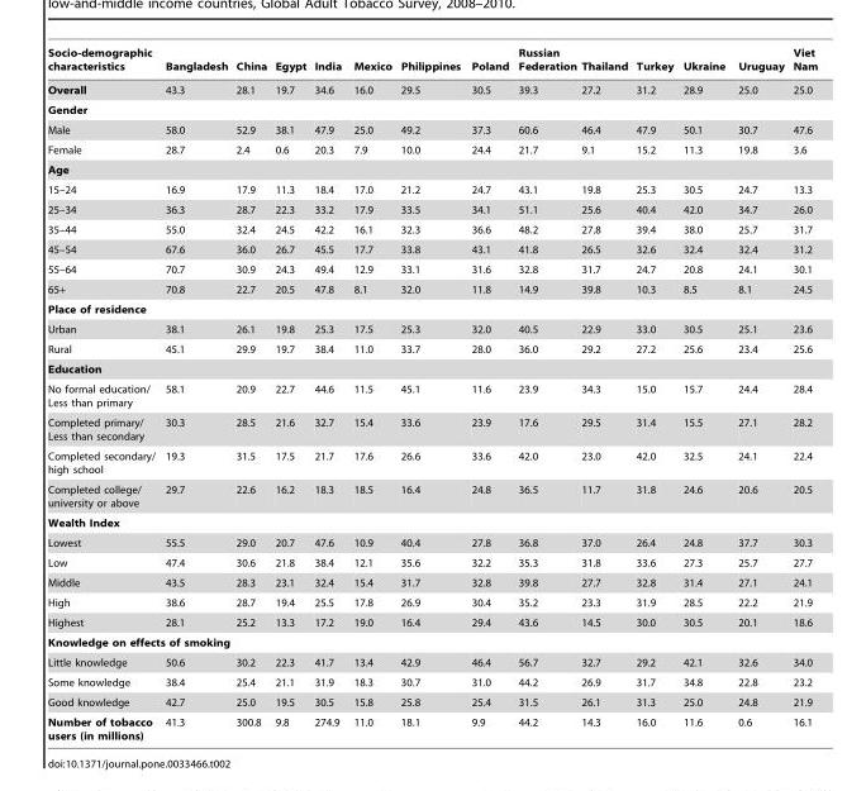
<table><thead><tr><td>Socio-demographic characteristics</td><td>Bangladesh</td><td>China</td><td>Egypt</td><td>India</td><td>Mexico</td><td>Philippines</td><td>Poland</td><td>Russian Federation</td><td>Thailand</td><td>Turkey</td><td>Ukraine</td><td>Uruguay</td><td>Viet Nam</td></tr></thead><tbody><tr><td>Overall</td><td>43.3</td><td>28.1</td><td>19.7</td><td>34.6</td><td>16.0</td><td>29.5</td><td>30.5</td><td>39.3</td><td>27.2</td><td>31.2</td><td>28.9</td><td>25.0</td><td>25.0</td></tr><tr><td colspan="14">Gender</td></tr><tr><td>Male</td><td>58.0</td><td>52.9</td><td>38.1</td><td>47.9</td><td>25.0</td><td>49.2</td><td>37.3</td><td>60.6</td><td>46.4</td><td>47.9</td><td>50.1</td><td>30.7</td><td>47.6</td></tr><tr><td>Female</td><td>28.7</td><td>2.4</td><td>0.6</td><td>20.3</td><td>7.9</td><td>10.0</td><td>24.4</td><td>21.7</td><td>9.1</td><td>15.2</td><td>11.3</td><td>19.8</td><td>3.6</td></tr><tr><td colspan="14">Age</td></tr><tr><td>15–24</td><td>16.9</td><td>17.9</td><td>11.3</td><td>18.4</td><td>17.0</td><td>21.2</td><td>24.7</td><td>43.1</td><td>19.8</td><td>25.3</td><td>30.5</td><td>24.7</td><td>13.3</td></tr><tr><td>25–34</td><td>36.3</td><td>28.7</td><td>22.3</td><td>33.2</td><td>17.9</td><td>33.5</td><td>34.1</td><td>51.1</td><td>25.6</td><td>40.4</td><td>42.0</td><td>34.7</td><td>26.0</td></tr><tr><td>35–44</td><td>55.0</td><td>32.4</td><td>24.5</td><td>42.2</td><td>16.1</td><td>32.3</td><td>36.6</td><td>48.2</td><td>27.8</td><td>39.4</td><td>38.0</td><td>25.7</td><td>31.7</td></tr><tr><td>45–54</td><td>67.6</td><td>36.0</td><td>26.7</td><td>45.5</td><td>17.7</td><td>33.8</td><td>43.1</td><td>41.8</td><td>26.5</td><td>32.6</td><td>32.4</td><td>32.4</td><td>31.2</td></tr><tr><td>55–64</td><td>70.7</td><td>30.9</td><td>24.3</td><td>49.4</td><td>12.9</td><td>33.1</td><td>31.6</td><td>32.8</td><td>31.7</td><td>24.7</td><td>20.8</td><td>24.1</td><td>30.1</td></tr><tr><td>65+</td><td>70.8</td><td>22.7</td><td>20.5</td><td>47.8</td><td>8.1</td><td>32.0</td><td>11.8</td><td>14.9</td><td>39.8</td><td>10.3</td><td>8.5</td><td>8.1</td><td>24.5</td></tr><tr><td colspan="14">Place of residence</td></tr><tr><td>Urban</td><td>38.1</td><td>26.1</td><td>19.8</td><td>25.3</td><td>17.5</td><td>25.3</td><td>32.0</td><td>40.5</td><td>22.9</td><td>33.0</td><td>30.5</td><td>25.1</td><td>23.6</td></tr><tr><td>Rural</td><td>45.1</td><td>29.9</td><td>19.7</td><td>38.4</td><td>11.0</td><td>33.7</td><td>28.0</td><td>36.0</td><td>29.2</td><td>27.2</td><td>25.6</td><td>23.4</td><td>25.6</td></tr><tr><td colspan="14">Education</td></tr><tr><td>No formal education/ Less than primary</td><td>58.1</td><td>20.9</td><td>22.7</td><td>44.6</td><td>11.5</td><td>45.1</td><td>11.6</td><td>23.9</td><td>34.3</td><td>15.0</td><td>15.7</td><td>24.4</td><td>28.4</td></tr><tr><td>Completed primary/ Less than secondary</td><td>30.3</td><td>28.5</td><td>21.6</td><td>32.7</td><td>15.4</td><td>33.6</td><td>23.9</td><td>17.6</td><td>29.5</td><td>31.4</td><td>15.5</td><td>27.1</td><td>28.2</td></tr><tr><td>Completed secondary/ high school</td><td>19.3</td><td>31.5</td><td>17.5</td><td>21.7</td><td>17.6</td><td>26.6</td><td>33.6</td><td>42.0</td><td>23.0</td><td>42.0</td><td>32.5</td><td>24.1</td><td>22.4</td></tr><tr><td>Completed college/ university or above</td><td>29.7</td><td>22.6</td><td>16.2</td><td>18.3</td><td>18.5</td><td>16.4</td><td>24.8</td><td>36.5</td><td>11.7</td><td>31.8</td><td>24.6</td><td>20.6</td><td>20.5</td></tr><tr><td colspan="14">Wealth Index</td></tr><tr><td>Lowest</td><td>55.5</td><td>29.0</td><td>20.7</td><td>47.6</td><td>10.9</td><td>40.4</td><td>27.8</td><td>36.8</td><td>37.0</td><td>26.4</td><td>24.8</td><td>37.7</td><td>30.3</td></tr><tr><td>Low</td><td>47.4</td><td>30.6</td><td>21.8</td><td>38.4</td><td>12.1</td><td>35.6</td><td>32.2</td><td>35.3</td><td>31.8</td><td>33.6</td><td>27.3</td><td>25.7</td><td>27.7</td></tr><tr><td>Middle</td><td>43.5</td><td>28.3</td><td>23.1</td><td>32.4</td><td>15.4</td><td>31.7</td><td>32.8</td><td>39.8</td><td>27.7</td><td>32.8</td><td>31.4</td><td>27.1</td><td>24.1</td></tr><tr><td>High</td><td>38.6</td><td>28.7</td><td>19.4</td><td>25.5</td><td>17.8</td><td>26.9</td><td>30.4</td><td>35.2</td><td>23.3</td><td>31.9</td><td>28.5</td><td>22.2</td><td>21.9</td></tr><tr><td>Highest</td><td>28.1</td><td>25.2</td><td>13.3</td><td>17.2</td><td>19.0</td><td>16.4</td><td>29.4</td><td>43.6</td><td>14.5</td><td>30.0</td><td>30.5</td><td>20.1</td><td>18.6</td></tr><tr><td colspan="14">Knowledge on effects of smoking</td></tr><tr><td>Little knowledge</td><td>50.6</td><td>30.2</td><td>22.3</td><td>41.7</td><td>13.4</td><td>42.9</td><td>46.4</td><td>56.7</td><td>32.7</td><td>29.2</td><td>42.1</td><td>32.6</td><td>34.0</td></tr><tr><td>Some knowledge</td><td>38.4</td><td>25.4</td><td>21.1</td><td>31.9</td><td>18.3</td><td>30.7</td><td>31.0</td><td>44.2</td><td>26.9</td><td>31.7</td><td>34.8</td><td>22.8</td><td>23.2</td></tr><tr><td>Good knowledge</td><td>42.7</td><td>25.0</td><td>19.5</td><td>30.5</td><td>15.8</td><td>25.8</td><td>25.4</td><td>31.5</td><td>26.1</td><td>31.3</td><td>25.0</td><td>24.8</td><td>21.9</td></tr><tr><td>Number of tobacco users (in millions)</td><td>41.3</td><td>300.8</td><td>9.8</td><td>274.9</td><td>11.0</td><td>18.1</td><td>9.9</td><td>44.2</td><td>14.3</td><td>16.0</td><td>11.6</td><td>0.6</td><td>16.1</td></tr></tbody></table>